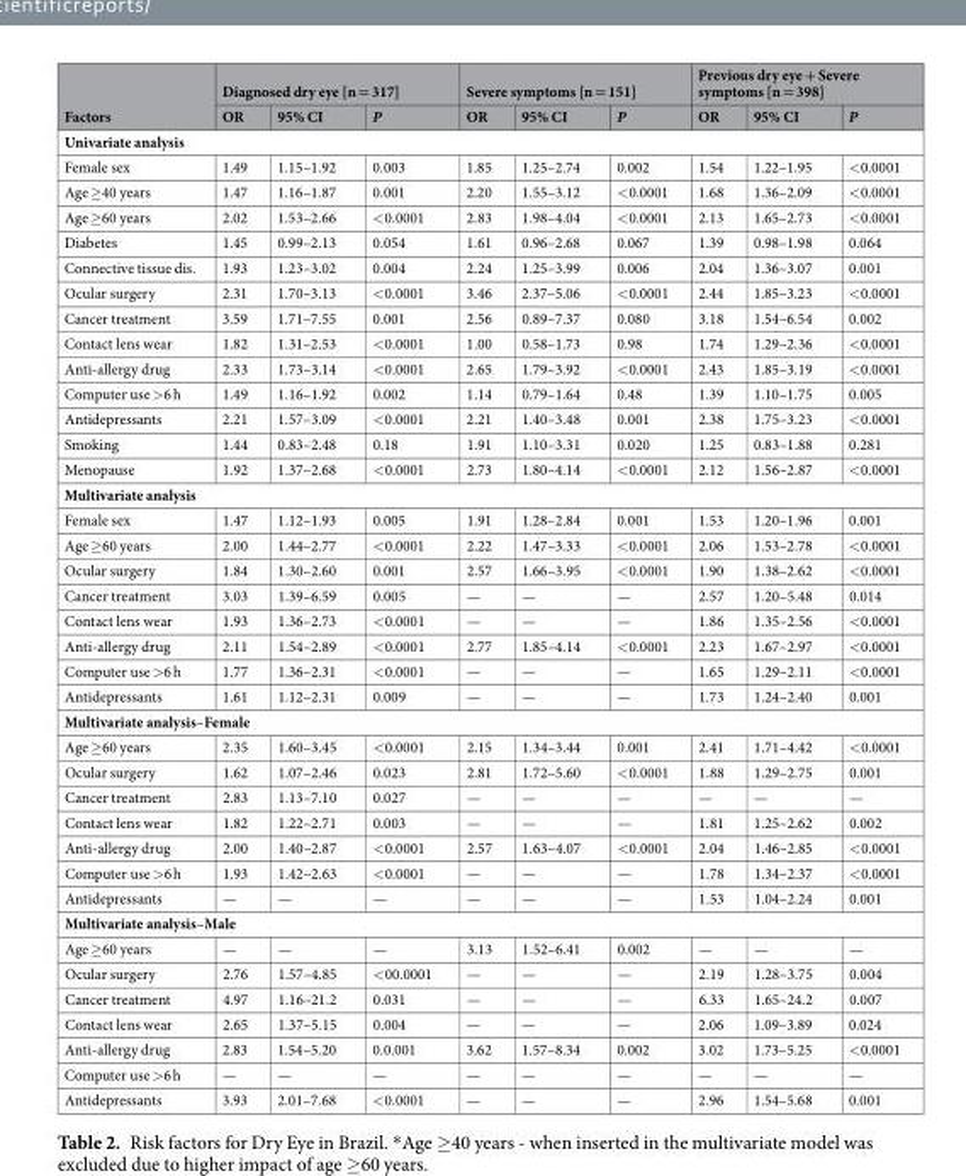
<table><thead><tr><td rowspan="2">Factors</td><td colspan="3">Diagnosed dry eye [n = 317]</td><td colspan="3">Severe symptoms [n = 151]</td><td colspan="3">Previous dry eye + Severe symptoms [n = 398]</td></tr><tr><td>OR</td><td>95% CI</td><td>P</td><td>OR</td><td>95% CI</td><td>P</td><td>OR</td><td>95% CI</td><td>P</td></tr></thead><tbody><tr><td colspan="10">Univariate analysis</td></tr><tr><td>Female sex</td><td>1.49</td><td>1.15–1.92</td><td>0.003</td><td>1.85</td><td>1.25–2.74</td><td>0.002</td><td>1.54</td><td>1.22–1.95</td><td>&lt;0.0001</td></tr><tr><td>Age ≥40 years</td><td>1.47</td><td>1.16–1.87</td><td>0.001</td><td>2.20</td><td>1.55–3.12</td><td>&lt;0.0001</td><td>1.68</td><td>1.36–2.09</td><td>&lt;0.0001</td></tr><tr><td>Age ≥60 years</td><td>2.02</td><td>1.53–2.66</td><td>&lt;0.0001</td><td>2.83</td><td>1.98–4.04</td><td>&lt;0.0001</td><td>2.13</td><td>1.65–2.73</td><td>&lt;0.0001</td></tr><tr><td>Diabetes</td><td>1.45</td><td>0.99–2.13</td><td>0.054</td><td>1.61</td><td>0.96–2.68</td><td>0.067</td><td>1.39</td><td>0.98–1.98</td><td>0.064</td></tr><tr><td>Connective tissue dis.</td><td>1.93</td><td>1.23–3.02</td><td>0.004</td><td>2.24</td><td>1.25–3.99</td><td>0.006</td><td>2.04</td><td>1.36–3.07</td><td>0.001</td></tr><tr><td>Ocular surgery</td><td>2.31</td><td>1.70–3.13</td><td>&lt;0.0001</td><td>3.46</td><td>2.37–5.06</td><td>&lt;0.0001</td><td>2.44</td><td>1.85–3.23</td><td>&lt;0.0001</td></tr><tr><td>Cancer treatment</td><td>3.59</td><td>1.71–7.55</td><td>0.001</td><td>2.56</td><td>0.89–7.37</td><td>0.080</td><td>3.18</td><td>1.54–6.54</td><td>0.002</td></tr><tr><td>Contact lens wear</td><td>1.82</td><td>1.31–2.53</td><td>&lt;0.0001</td><td>1.00</td><td>0.58–1.73</td><td>0.98</td><td>1.74</td><td>1.29–2.36</td><td>&lt;0.0001</td></tr><tr><td>Anti-allergy drug</td><td>2.33</td><td>1.73–3.14</td><td>&lt;0.0001</td><td>2.65</td><td>1.79–3.92</td><td>&lt;0.0001</td><td>2.43</td><td>1.85–3.19</td><td>&lt;0.0001</td></tr><tr><td>Computer use &gt;6 h</td><td>1.49</td><td>1.16–1.92</td><td>0.002</td><td>1.14</td><td>0.79–1.64</td><td>0.48</td><td>1.39</td><td>1.10–1.75</td><td>0.005</td></tr><tr><td>Antidepressants</td><td>2.21</td><td>1.57–3.09</td><td>&lt;0.0001</td><td>2.21</td><td>1.40–3.48</td><td>0.001</td><td>2.38</td><td>1.75–3.23</td><td>&lt;0.0001</td></tr><tr><td>Smoking</td><td>1.44</td><td>0.83–2.48</td><td>0.18</td><td>1.91</td><td>1.10–3.31</td><td>0.020</td><td>1.25</td><td>0.83–1.88</td><td>0.281</td></tr><tr><td>Menopause</td><td>1.92</td><td>1.37–2.68</td><td>&lt;0.0001</td><td>2.73</td><td>1.80–4.14</td><td>&lt;0.0001</td><td>2.12</td><td>1.56–2.87</td><td>&lt;0.0001</td></tr><tr><td colspan="10">Multivariate analysis</td></tr><tr><td>Female sex</td><td>1.47</td><td>1.12–1.93</td><td>0.005</td><td>1.91</td><td>1.28–2.84</td><td>0.001</td><td>1.53</td><td>1.20–1.96</td><td>0.001</td></tr><tr><td>Age ≥60 years</td><td>2.00</td><td>1.44–2.77</td><td>&lt;0.0001</td><td>2.22</td><td>1.47–3.33</td><td>&lt;0.0001</td><td>2.06</td><td>1.53–2.78</td><td>&lt;0.0001</td></tr><tr><td>Ocular surgery</td><td>1.84</td><td>1.30–2.60</td><td>0.001</td><td>2.57</td><td>1.66–3.95</td><td>&lt;0.0001</td><td>1.90</td><td>1.38–2.62</td><td>&lt;0.0001</td></tr><tr><td>Cancer treatment</td><td>3.03</td><td>1.39–6.59</td><td>0.005</td><td>—</td><td>—</td><td>—</td><td>2.57</td><td>1.20–5.48</td><td>0.014</td></tr><tr><td>Contact lens wear</td><td>1.93</td><td>1.36–2.73</td><td>&lt;0.0001</td><td>—</td><td>—</td><td>—</td><td>1.86</td><td>1.35–2.56</td><td>&lt;0.0001</td></tr><tr><td>Anti-allergy drug</td><td>2.11</td><td>1.54–2.89</td><td>&lt;0.0001</td><td>2.77</td><td>1.85–4.14</td><td>&lt;0.0001</td><td>2.23</td><td>1.67–2.97</td><td>&lt;0.0001</td></tr><tr><td>Computer use &gt;6 h</td><td>1.77</td><td>1.36–2.31</td><td>&lt;0.0001</td><td>—</td><td>—</td><td>—</td><td>1.65</td><td>1.29–2.11</td><td>&lt;0.0001</td></tr><tr><td>Antidepressants</td><td>1.61</td><td>1.12–2.31</td><td>0.009</td><td>—</td><td>—</td><td>—</td><td>1.73</td><td>1.24–2.40</td><td>0.001</td></tr><tr><td colspan="10">Multivariate analysis–Female</td></tr><tr><td>Age ≥60 years</td><td>2.35</td><td>1.60–3.45</td><td>&lt;0.0001</td><td>2.15</td><td>1.34–3.44</td><td>0.001</td><td>2.41</td><td>1.71–4.42</td><td>&lt;0.0001</td></tr><tr><td>Ocular surgery</td><td>1.62</td><td>1.07–2.46</td><td>0.023</td><td>2.81</td><td>1.72–5.60</td><td>&lt;0.0001</td><td>1.88</td><td>1.29–2.75</td><td>0.001</td></tr><tr><td>Cancer treatment</td><td>2.83</td><td>1.13–7.10</td><td>0.027</td><td>—</td><td>—</td><td>—</td><td>—</td><td>—</td><td>—</td></tr><tr><td>Contact lens wear</td><td>1.82</td><td>1.22–2.71</td><td>0.003</td><td>—</td><td>—</td><td>—</td><td>1.81</td><td>1.25–2.62</td><td>0.002</td></tr><tr><td>Anti-allergy drug</td><td>2.00</td><td>1.40–2.87</td><td>&lt;0.0001</td><td>2.57</td><td>1.63–4.07</td><td>&lt;0.0001</td><td>2.04</td><td>1.46–2.85</td><td>&lt;0.0001</td></tr><tr><td>Computer use &gt;6 h</td><td>1.93</td><td>1.42–2.63</td><td>&lt;0.0001</td><td>—</td><td>—</td><td>—</td><td>1.78</td><td>1.34–2.37</td><td>&lt;0.0001</td></tr><tr><td>Antidepressants</td><td>—</td><td>—</td><td>—</td><td>—</td><td>—</td><td>—</td><td>1.53</td><td>1.04–2.24</td><td>0.001</td></tr><tr><td colspan="10">Multivariate analysis–Male</td></tr><tr><td>Age ≥60 years</td><td>—</td><td>—</td><td>—</td><td>3.13</td><td>1.52–6.41</td><td>0.002</td><td>—</td><td>—</td><td>—</td></tr><tr><td>Ocular surgery</td><td>2.76</td><td>1.57–4.85</td><td>&lt;00.0001</td><td>—</td><td>—</td><td>—</td><td>2.19</td><td>1.28–3.75</td><td>0.004</td></tr><tr><td>Cancer treatment</td><td>4.97</td><td>1.16–21.2</td><td>0.031</td><td>—</td><td>—</td><td>—</td><td>6.33</td><td>1.65–24.2</td><td>0.007</td></tr><tr><td>Contact lens wear</td><td>2.65</td><td>1.37–5.15</td><td>0.004</td><td>—</td><td>—</td><td>—</td><td>2.06</td><td>1.09–3.89</td><td>0.024</td></tr><tr><td>Anti-allergy drug</td><td>2.83</td><td>1.54–5.20</td><td>0.0.001</td><td>3.62</td><td>1.57–8.34</td><td>0.002</td><td>3.02</td><td>1.73–5.25</td><td>&lt;0.0001</td></tr><tr><td>Computer use &gt;6 h</td><td>—</td><td>—</td><td>—</td><td>—</td><td>—</td><td>—</td><td>—</td><td>—</td><td>—</td></tr><tr><td>Antidepressants</td><td>3.93</td><td>2.01–7.68</td><td>&lt;0.0001</td><td>—</td><td>—</td><td>—</td><td>2.96</td><td>1.54–5.68</td><td>0.001</td></tr></tbody></table>